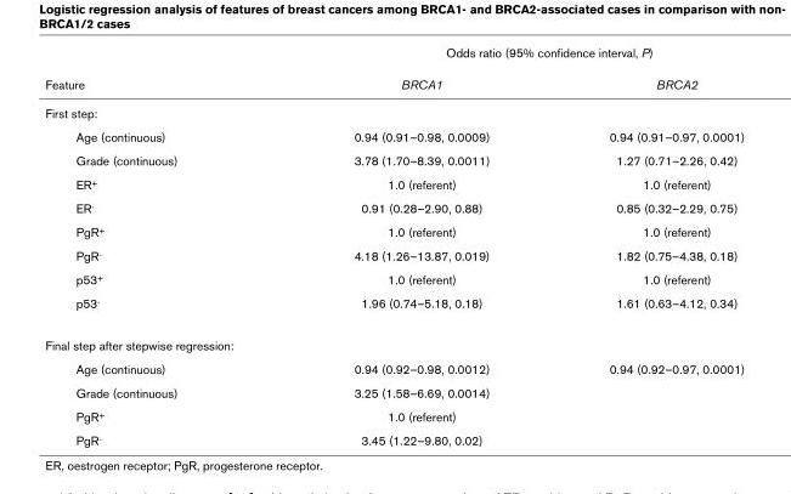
<table><thead><tr><td rowspan="2">Feature</td><td colspan="2">Odds ratio (95% confidence interval, P)</td></tr><tr><td>BRCA1</td><td>BRCA2</td></tr></thead><tbody><tr><td colspan="3">First step:</td></tr><tr><td>Age (continuous)</td><td>0.94 (0.91–0.98, 0.0009)</td><td>0.94 (0.91–0.97, 0.0001)</td></tr><tr><td>Grade (continuous)</td><td>3.78 (1.70–8.39, 0.0011)</td><td>1.27 (0.71–2.26, 0.42)</td></tr><tr><td>ER+</td><td>1.0 (referent)</td><td>1.0 (referent)</td></tr><tr><td>ER-</td><td>0.91 (0.28–2.90, 0.88)</td><td>0.85 (0.32–2.29, 0.75)</td></tr><tr><td>PgR+</td><td>1.0 (referent)</td><td>1.0 (referent)</td></tr><tr><td>PgR-</td><td>4.18 (1.26–13.87, 0.019)</td><td>1.82 (0.75–4.38, 0.18)</td></tr><tr><td>p53+</td><td>1.0 (referent)</td><td>1.0 (referent)</td></tr><tr><td>p53-</td><td>1.96 (0.74–5.18, 0.18)</td><td>1.61 (0.63–4.12, 0.34)</td></tr><tr><td colspan="3">Final step after stepwise regression:</td></tr><tr><td>Age (continuous)</td><td>0.94 (0.92–0.98, 0.0012)</td><td>0.94 (0.92–0.97, 0.0001)</td></tr><tr><td>Grade (continuous)</td><td>3.25 (1.58–6.69, 0.0014)</td><td></td></tr><tr><td>PgR+</td><td>1.0 (referent)</td><td></td></tr><tr><td>PgR-</td><td>3.45 (1.22–9.80, 0.02)</td><td></td></tr></tbody></table>